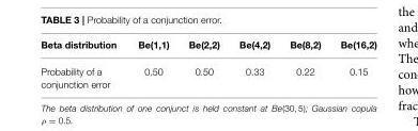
<table><thead><tr><td>Beta distribution</td><td>Be(1,1)</td><td>Be(2,2)</td><td>Be(4,2)</td><td>Be(8,2)</td><td>Be(16,2)</td></tr></thead><tbody><tr><td>Probability of a conjunction error</td><td>0.50</td><td>0.50</td><td>0.33</td><td>0.22</td><td>0.15</td></tr></tbody></table>